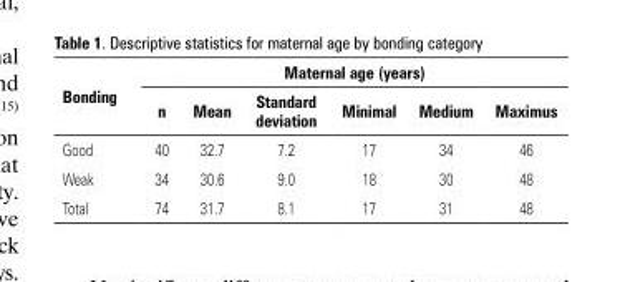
<table><thead><tr><td rowspan="2">Bonding</td><td colspan="6">Maternal age (years)</td></tr><tr><td>n</td><td>Mean</td><td>Standard deviation</td><td>Minimal</td><td>Medium</td><td>Maximus</td></tr></thead><tbody><tr><td>Good</td><td>40</td><td>32.7</td><td>7.2</td><td>17</td><td>34</td><td>46</td></tr><tr><td>Weak</td><td>34</td><td>30.6</td><td>9.0</td><td>18</td><td>30</td><td>48</td></tr><tr><td>Total</td><td>74</td><td>31.7</td><td>8.1</td><td>17</td><td>31</td><td>48</td></tr></tbody></table>